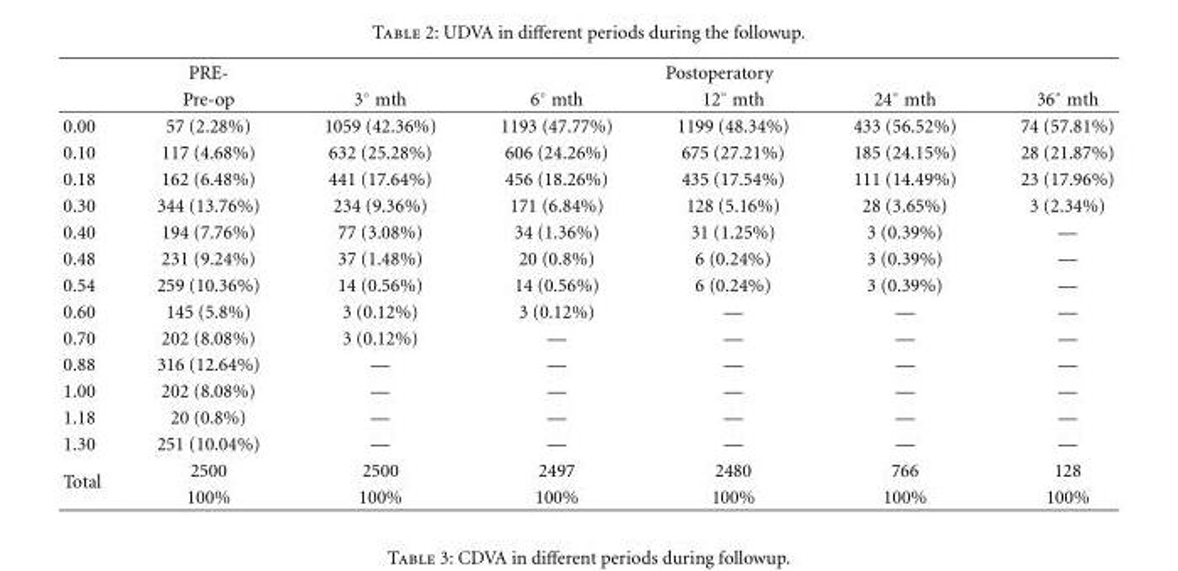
<table><thead><tr><td rowspan="2"></td><td rowspan="2">PRE- Pre-op</td><td colspan="5">Postoperatory</td></tr><tr><td>3◦ mth</td><td>6◦ mth</td><td>12◦ mth</td><td>24◦ mth</td><td>36◦ mth</td></tr></thead><tbody><tr><td>0.00</td><td>57 (2.28%)</td><td>1059 (42.36%)</td><td>1193 (47.77%)</td><td>1199 (48.34%)</td><td>433 (56.52%)</td><td>74 (57.81%)</td></tr><tr><td>0.10</td><td>117 (4.68%)</td><td>632 (25.28%)</td><td>606 (24.26%)</td><td>675 (27.21%)</td><td>185 (24.15%)</td><td>28 (21.87%)</td></tr><tr><td>0.18</td><td>162 (6.48%)</td><td>441 (17.64%)</td><td>456 (18.26%)</td><td>435 (17.54%)</td><td>111 (14.49%)</td><td>23 (17.96%)</td></tr><tr><td>0.30</td><td>344 (13.76%)</td><td>234 (9.36%)</td><td>171 (6.84%)</td><td>128 (5.16%)</td><td>28 (3.65%)</td><td>3 (2.34%)</td></tr><tr><td>0.40</td><td>194 (7.76%)</td><td>77 (3.08%)</td><td>34 (1.36%)</td><td>31 (1.25%)</td><td>3 (0.39%)</td><td>—</td></tr><tr><td>0.48</td><td>231 (9.24%)</td><td>37 (1.48%)</td><td>20 (0.8%)</td><td>6 (0.24%)</td><td>3 (0.39%)</td><td>—</td></tr><tr><td>0.54</td><td>259 (10.36%)</td><td>14 (0.56%)</td><td>14 (0.56%)</td><td>6 (0.24%)</td><td>3 (0.39%)</td><td>—</td></tr><tr><td>0.60</td><td>145 (5.8%)</td><td>3 (0.12%)</td><td>3 (0.12%)</td><td>—</td><td>—</td><td>—</td></tr><tr><td>0.70</td><td>202 (8.08%)</td><td>3 (0.12%)</td><td>—</td><td>—</td><td>—</td><td>—</td></tr><tr><td>0.88</td><td>316 (12.64%)</td><td>—</td><td>—</td><td>—</td><td>—</td><td>—</td></tr><tr><td>1.00</td><td>202 (8.08%)</td><td>—</td><td>—</td><td>—</td><td>—</td><td>—</td></tr><tr><td>1.18</td><td>20 (0.8%)</td><td>—</td><td>—</td><td>—</td><td>—</td><td>—</td></tr><tr><td>1.30</td><td>251 (10.04%)</td><td>—</td><td>—</td><td>—</td><td>—</td><td>—</td></tr><tr><td rowspan="2">Total</td><td>2500</td><td>2500</td><td>2497</td><td>2480</td><td>766</td><td>128</td></tr><tr><td>100%</td><td>100%</td><td>100%</td><td>100%</td><td>100%</td><td>100%</td></tr></tbody></table>